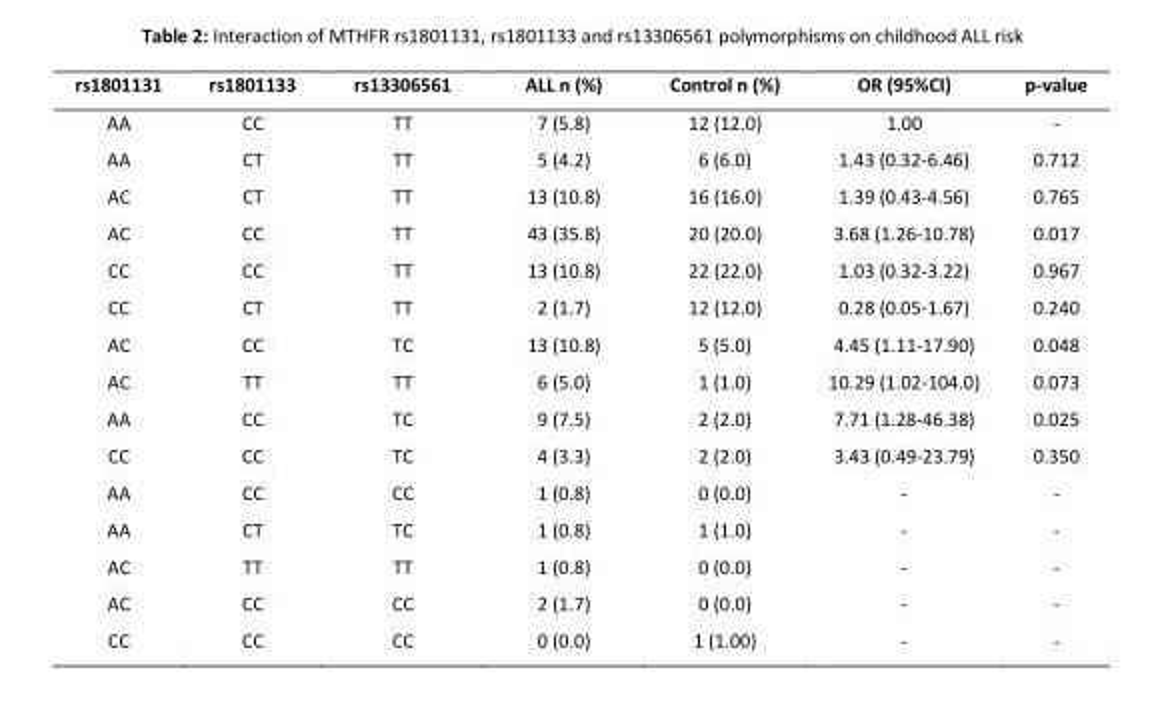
<table><thead><tr><td>rs1801131</td><td>rs1801133</td><td>rs13306561</td><td>ALL n (%)</td><td>Control n (%)</td><td>OR (95%CI)</td><td>p-value</td></tr></thead><tbody><tr><td>AA</td><td>CC</td><td>TT</td><td>7 (5.8)</td><td>12 (12.0)</td><td>1.00</td><td>-</td></tr><tr><td>AA</td><td>CT</td><td>TT</td><td>5 (4.2)</td><td>6 (6.0)</td><td>1.43 (0.32-6.46)</td><td>0.712</td></tr><tr><td>AC</td><td>CT</td><td>TT</td><td>13 (10.8)</td><td>16 (16.0)</td><td>1.39 (0.43-4.56)</td><td>0.765</td></tr><tr><td>AC</td><td>CC</td><td>TT</td><td>43 (35.8)</td><td>20 (20.0)</td><td>3.68 (1.26-10.78)</td><td>0.017</td></tr><tr><td>CC</td><td>CC</td><td>TT</td><td>13 (10.8)</td><td>22 (22.0)</td><td>1.03 (0.32-3.22)</td><td>0.967</td></tr><tr><td>CC</td><td>CT</td><td>TT</td><td>2 (1.7)</td><td>12 (12.0)</td><td>0.28 (0.05-1.67)</td><td>0.240</td></tr><tr><td>AC</td><td>CC</td><td>TC</td><td>13 (10.8)</td><td>5 (5.0)</td><td>4.45 (1.11-17.90)</td><td>0.048</td></tr><tr><td>AC</td><td>TT</td><td>TT</td><td>6 (5.0)</td><td>1 (1.0)</td><td>10.29 (1.02-104.0)</td><td>0.073</td></tr><tr><td>AA</td><td>CC</td><td>TC</td><td>9 (7.5)</td><td>2 (2.0)</td><td>7.71 (1.28-46.38)</td><td>0.025</td></tr><tr><td>CC</td><td>CC</td><td>TC</td><td>4 (3.3)</td><td>2 (2.0)</td><td>3.43 (0.49-23.79)</td><td>0.350</td></tr><tr><td>AA</td><td>CC</td><td>CC</td><td>1 (0.8)</td><td>0 (0.0)</td><td>-</td><td>-</td></tr><tr><td>AA</td><td>CT</td><td>TC</td><td>1 (0.8)</td><td>1 (1.0)</td><td>-</td><td>-</td></tr><tr><td>AC</td><td>TT</td><td>TT</td><td>1 (0.8)</td><td>0 (0.0)</td><td>-</td><td>-</td></tr><tr><td>AC</td><td>CC</td><td>CC</td><td>2 (1.7)</td><td>0 (0.0)</td><td>-</td><td>-</td></tr><tr><td>CC</td><td>CC</td><td>CC</td><td>0 (0.0)</td><td>1 (1.00)</td><td>-</td><td>-</td></tr></tbody></table>